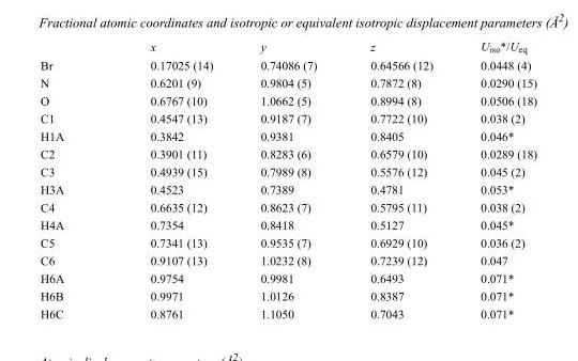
<table><thead><tr><td></td><td>x</td><td>y</td><td>z</td><td>U<sub>iso</sub>*/U<sub>eq</sub></td></tr></thead><tbody><tr><td>Br</td><td>0.17025 (14)</td><td>0.74086 (7)</td><td>0.64566 (12)</td><td>0.0448 (4)</td></tr><tr><td>N</td><td>0.6201 (9)</td><td>0.9804 (5)</td><td>0.7872 (8)</td><td>0.0290 (15)</td></tr><tr><td>O</td><td>0.6767 (10)</td><td>1.0662 (5)</td><td>0.8994 (8)</td><td>0.0506 (18)</td></tr><tr><td>C1</td><td>0.4547 (13)</td><td>0.9187 (7)</td><td>0.7722 (10)</td><td>0.038 (2)</td></tr><tr><td>H1A</td><td>0.3842</td><td>0.9381</td><td>0.8405</td><td>0.046*</td></tr><tr><td>C2</td><td>0.3901 (11)</td><td>0.8283 (6)</td><td>0.6579 (10)</td><td>0.0289 (18)</td></tr><tr><td>C3</td><td>0.4939 (15)</td><td>0.7989 (8)</td><td>0.5576 (12)</td><td>0.045 (2)</td></tr><tr><td>H3A</td><td>0.4523</td><td>0.7389</td><td>0.4781</td><td>0.053*</td></tr><tr><td>C4</td><td>0.6635 (12)</td><td>0.8623 (7)</td><td>0.5795 (11)</td><td>0.038 (2)</td></tr><tr><td>H4A</td><td>0.7354</td><td>0.8418</td><td>0.5127</td><td>0.045*</td></tr><tr><td>C5</td><td>0.7341 (13)</td><td>0.9535 (7)</td><td>0.6929 (10)</td><td>0.036 (2)</td></tr><tr><td>C6</td><td>0.9107 (13)</td><td>1.0232 (8)</td><td>0.7239 (12)</td><td>0.047</td></tr><tr><td>H6A</td><td>0.9754</td><td>0.9981</td><td>0.6493</td><td>0.071*</td></tr><tr><td>H6B</td><td>0.9971</td><td>1.0126</td><td>0.8387</td><td>0.071*</td></tr><tr><td>H6C</td><td>0.8761</td><td>1.1050</td><td>0.7043</td><td>0.071*</td></tr></tbody></table>